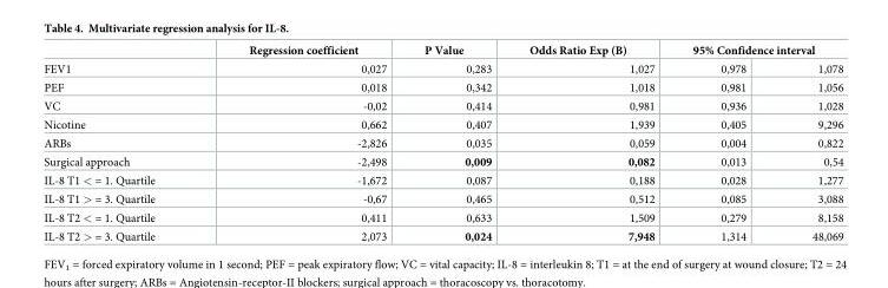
<table><thead><tr><td rowspan="2">FEV1</td><td rowspan="2">Regression coefficient 0,027</td><td rowspan="2">P Value 0,283</td><td rowspan="2">Odds Ratio Exp (B) 1,027</td><td colspan="2">95% Confidence interval</td></tr><tr><td>0,978</td><td>1,078</td></tr></thead><tbody><tr><td>PEF</td><td>0,018</td><td>0,342</td><td>1,018</td><td>0,981</td><td>1,056</td></tr><tr><td>VC</td><td>-0,02</td><td>0,414</td><td>0,981</td><td>0,936</td><td>1,028</td></tr><tr><td>Nicotine</td><td>0,662</td><td>0,407</td><td>1,939</td><td>0,405</td><td>9,296</td></tr><tr><td>ARBs</td><td>-2,826</td><td>0,035</td><td>0,059</td><td>0,004</td><td>0,822</td></tr><tr><td>Surgical approach</td><td>-2,498</td><td>0,009</td><td>0,082</td><td>0,013</td><td>0,54</td></tr><tr><td>IL-8 T1 &lt; = 1. Quartile</td><td>-1,672</td><td>0,087</td><td>0,188</td><td>0,028</td><td>1,277</td></tr><tr><td>IL-8 T1 &gt; = 3. Quartile</td><td>-0,67</td><td>0,465</td><td>0,512</td><td>0,085</td><td>3,088</td></tr><tr><td>IL-8 T2 &lt; = 1. Quartile</td><td>0,411</td><td>0,633</td><td>1,509</td><td>0,279</td><td>8,158</td></tr><tr><td>IL-8 T2 &gt; = 3. Quartile</td><td>2,073</td><td>0,024</td><td>7,948</td><td>1,314</td><td>48,069</td></tr></tbody></table>